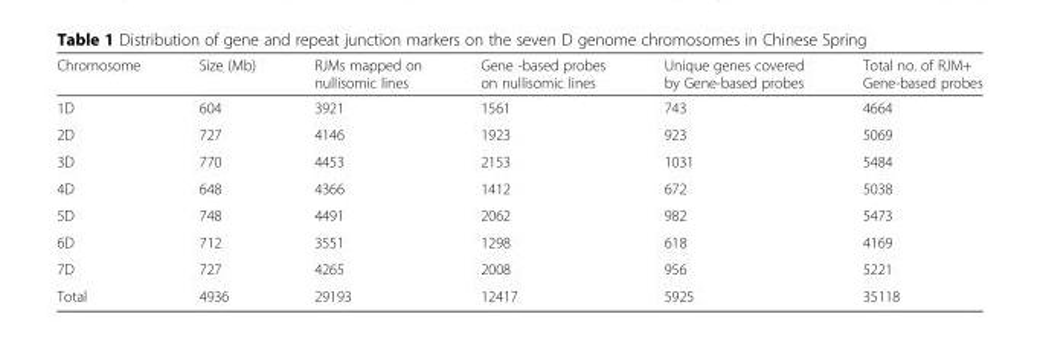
<table><thead><tr><td>Chromosome</td><td>Size (Mb)</td><td>RJMs mapped on nullisomic lines</td><td>Gene -based probes on nullisomic lines</td><td>Unique genes covered by Gene-based probes</td><td>Total no. of RJM+ Gene-based probes</td></tr></thead><tbody><tr><td>1D</td><td>604</td><td>3921</td><td>1561</td><td>743</td><td>4664</td></tr><tr><td>2D</td><td>727</td><td>4146</td><td>1923</td><td>923</td><td>5069</td></tr><tr><td>3D</td><td>770</td><td>4453</td><td>2153</td><td>1031</td><td>5484</td></tr><tr><td>4D</td><td>648</td><td>4366</td><td>1412</td><td>672</td><td>5038</td></tr><tr><td>5D</td><td>748</td><td>4491</td><td>2062</td><td>982</td><td>5473</td></tr><tr><td>6D</td><td>712</td><td>3551</td><td>1298</td><td>618</td><td>4169</td></tr><tr><td>7D</td><td>727</td><td>4265</td><td>2008</td><td>956</td><td>5221</td></tr><tr><td>Total</td><td>4936</td><td>29193</td><td>12417</td><td>5925</td><td>35118</td></tr></tbody></table>